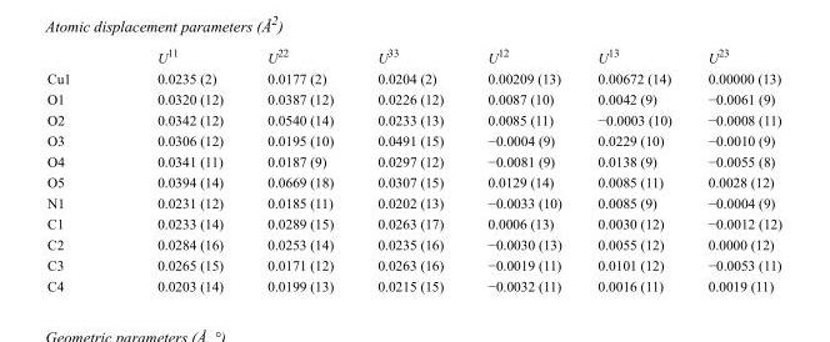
<table><thead><tr><td></td><td>U<sup>11</sup></td><td>U<sup>22</sup></td><td>U<sup>33</sup></td><td>U<sup>12</sup></td><td>U<sup>13</sup></td><td>U<sup>23</sup></td></tr></thead><tbody><tr><td>Cu1</td><td>0.0235 (2)</td><td>0.0177 (2)</td><td>0.0204 (2)</td><td>0.00209 (13)</td><td>0.00672 (14)</td><td>0.00000 (13)</td></tr><tr><td>O1</td><td>0.0320 (12)</td><td>0.0387 (12)</td><td>0.0226 (12)</td><td>0.0087 (10)</td><td>0.0042 (9)</td><td>−0.0061 (9)</td></tr><tr><td>O2</td><td>0.0342 (12)</td><td>0.0540 (14)</td><td>0.0233 (13)</td><td>0.0085 (11)</td><td>−0.0003 (10)</td><td>−0.0008 (11)</td></tr><tr><td>O3</td><td>0.0306 (12)</td><td>0.0195 (10)</td><td>0.0491 (15)</td><td>−0.0004 (9)</td><td>0.0229 (10)</td><td>−0.0010 (9)</td></tr><tr><td>O4</td><td>0.0341 (11)</td><td>0.0187 (9)</td><td>0.0297 (12)</td><td>−0.0081 (9)</td><td>0.0138 (9)</td><td>−0.0055 (8)</td></tr><tr><td>O5</td><td>0.0394 (14)</td><td>0.0669 (18)</td><td>0.0307 (15)</td><td>0.0129 (14)</td><td>0.0085 (11)</td><td>0.0028 (12)</td></tr><tr><td>N1</td><td>0.0231 (12)</td><td>0.0185 (11)</td><td>0.0202 (13)</td><td>−0.0033 (10)</td><td>0.0085 (9)</td><td>−0.0004 (9)</td></tr><tr><td>C1</td><td>0.0233 (14)</td><td>0.0289 (15)</td><td>0.0263 (17)</td><td>0.0006 (13)</td><td>0.0030 (12)</td><td>−0.0012 (12)</td></tr><tr><td>C2</td><td>0.0284 (16)</td><td>0.0253 (14)</td><td>0.0235 (16)</td><td>−0.0030 (13)</td><td>0.0055 (12)</td><td>0.0000 (12)</td></tr><tr><td>C3</td><td>0.0265 (15)</td><td>0.0171 (12)</td><td>0.0263 (16)</td><td>−0.0019 (11)</td><td>0.0101 (12)</td><td>−0.0053 (11)</td></tr><tr><td>C4</td><td>0.0203 (14)</td><td>0.0199 (13)</td><td>0.0215 (15)</td><td>−0.0032 (11)</td><td>0.0016 (11)</td><td>0.0019 (11)</td></tr></tbody></table>